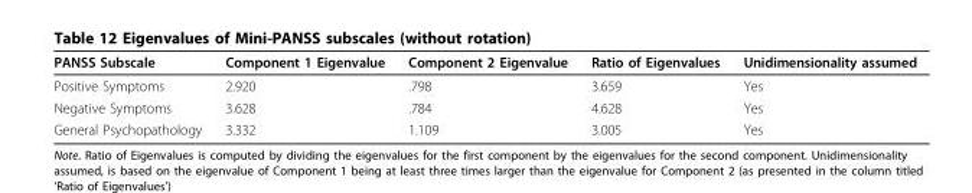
<table><thead><tr><td>PANSS Subscale</td><td>Component 1 Eigenvalue</td><td>Component 2 Eigenvalue</td><td>Ratio of Eigenvalues</td><td>Unidimensionality assumed</td></tr></thead><tbody><tr><td>Positive Symptoms</td><td>2.920</td><td>.798</td><td>3.659</td><td>Yes</td></tr><tr><td>Negative Symptoms</td><td>3.628</td><td>.784</td><td>4.628</td><td>Yes</td></tr><tr><td>General Psychopathology</td><td>3.332</td><td>1.109</td><td>3.005</td><td>Yes</td></tr></tbody></table>